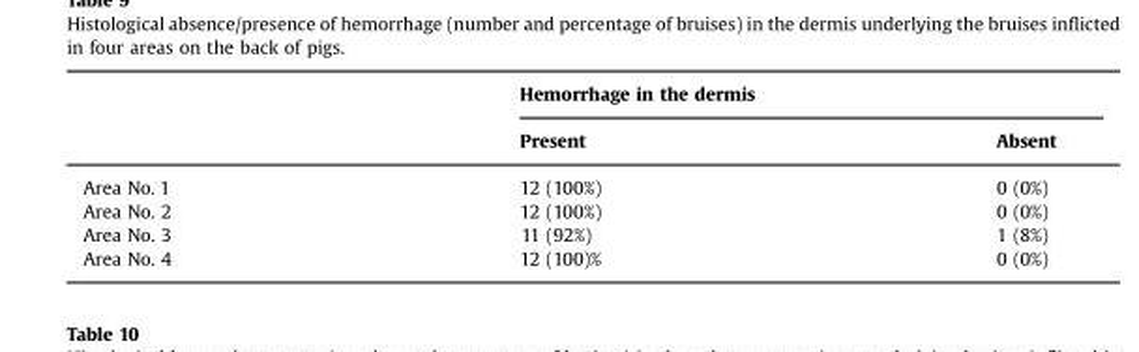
<table><thead><tr><td rowspan="2"></td><td colspan="2">Hemorrhage in the dermis</td></tr><tr><td>Present</td><td>Absent</td></tr></thead><tbody><tr><td>Area No. 1</td><td>12 (100%)</td><td>0 (0%)</td></tr><tr><td>Area No. 2</td><td>12 (100%)</td><td>0 (0%)</td></tr><tr><td>Area No. 3</td><td>11 (92%)</td><td>1 (8%)</td></tr><tr><td>Area No. 4</td><td>12 (100)%</td><td>0 (0%)</td></tr></tbody></table>